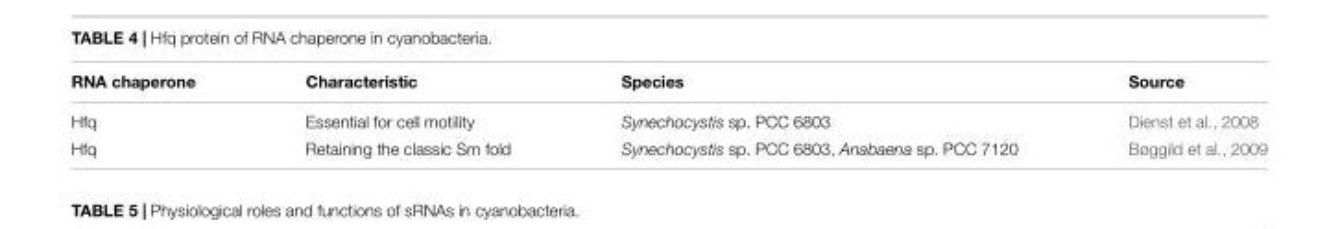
<table><thead><tr><td>RNA chaperone</td><td>Characteristic</td><td>Species</td><td>Source</td></tr></thead><tbody><tr><td>Hfq</td><td>Essential for cell motility</td><td>Synechocystis sp. PCC 6803</td><td>Dienst et al., 2008</td></tr><tr><td>Hfq</td><td>Retaining the classic Sm fold</td><td>Synechocystis sp. PCC 6803, Anabaena sp. PCC 7120</td><td>Bøggild et al., 2009</td></tr></tbody></table>